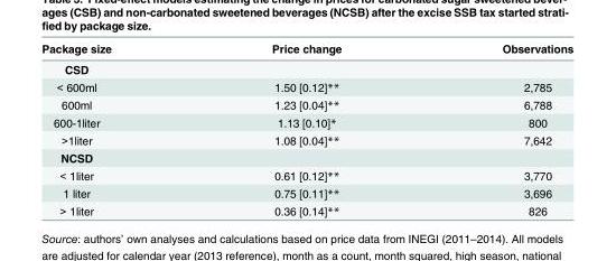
<table><thead><tr><td>Package size</td><td>Price change</td><td>Observations</td></tr></thead><tbody><tr><td colspan="3">CSD</td></tr><tr><td>&lt; 600ml</td><td>1.50 [0.12]**</td><td>2,785</td></tr><tr><td>600ml</td><td>1.23 [0.04]**</td><td>6,788</td></tr><tr><td>600-1liter</td><td>1.13 [0.10]*</td><td>800</td></tr><tr><td>&gt;1liter</td><td>1.08 [0.04]**</td><td>7,642</td></tr><tr><td colspan="3">NCSD</td></tr><tr><td>&lt; 1liter</td><td>0.61 [0.12]**</td><td>3,770</td></tr><tr><td>1 liter</td><td>0.75 [0.11]**</td><td>3,696</td></tr><tr><td>&gt; 1liter</td><td>0.36 [0.14]**</td><td>826</td></tr></tbody></table>